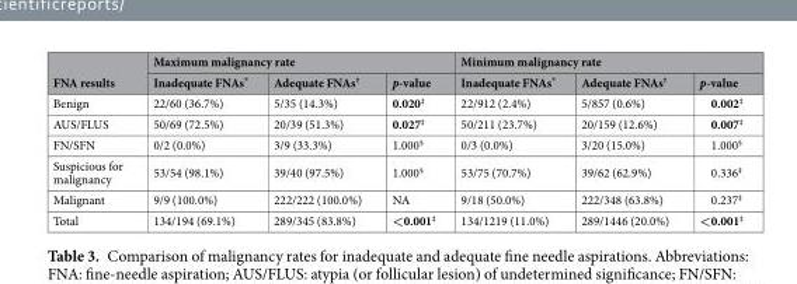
<table><thead><tr><td rowspan="2">FNA results</td><td colspan="3">Maximum malignancy rate</td><td colspan="3">Minimum malignancy rate</td></tr><tr><td>Inadequate FNAs*</td><td>Adequate FNAs<sup>†</sup></td><td>p-value</td><td>Inadequate FNAs*</td><td>Adequate FNAs<sup>†</sup></td><td>p-value</td></tr></thead><tbody><tr><td>Benign</td><td>22/60 (36.7%)</td><td>5/35 (14.3%)</td><td>0.020<sup>‡</sup></td><td>22/912 (2.4%)</td><td>5/857 (0.6%)</td><td>0.002<sup>‡</sup></td></tr><tr><td>AUS/FLUS</td><td>50/69 (72.5%)</td><td>20/39 (51.3%)</td><td>0.027<sup>‡</sup></td><td>50/211 (23.7%)</td><td>20/159 (12.6%)</td><td>0.007<sup>‡</sup></td></tr><tr><td>FN/SFN</td><td>0/2 (0.0%)</td><td>3/9 (33.3%)</td><td>1.000<sup>§</sup></td><td>0/3 (0.0%)</td><td>3/20 (15.0%)</td><td>1.000<sup>§</sup></td></tr><tr><td>Suspicious for malignancy</td><td>53/54 (98.1%)</td><td>39/40 (97.5%)</td><td>1.000<sup>§</sup></td><td>53/75 (70.7%)</td><td>39/62 (62.9%)</td><td>0.336<sup>‡</sup></td></tr><tr><td>Malignant</td><td>9/9 (100.0%)</td><td>222/222 (100.0%)</td><td>NA</td><td>9/18 (50.0%)</td><td>222/348 (63.8%)</td><td>0.237<sup>‡</sup></td></tr><tr><td>Total</td><td>134/194 (69.1%)</td><td>289/345 (83.8%)</td><td>&lt;0.001<sup>‡</sup></td><td>134/1219 (11.0%)</td><td>289/1446 (20.0%)</td><td>&lt;0.001<sup>‡</sup></td></tr></tbody></table>